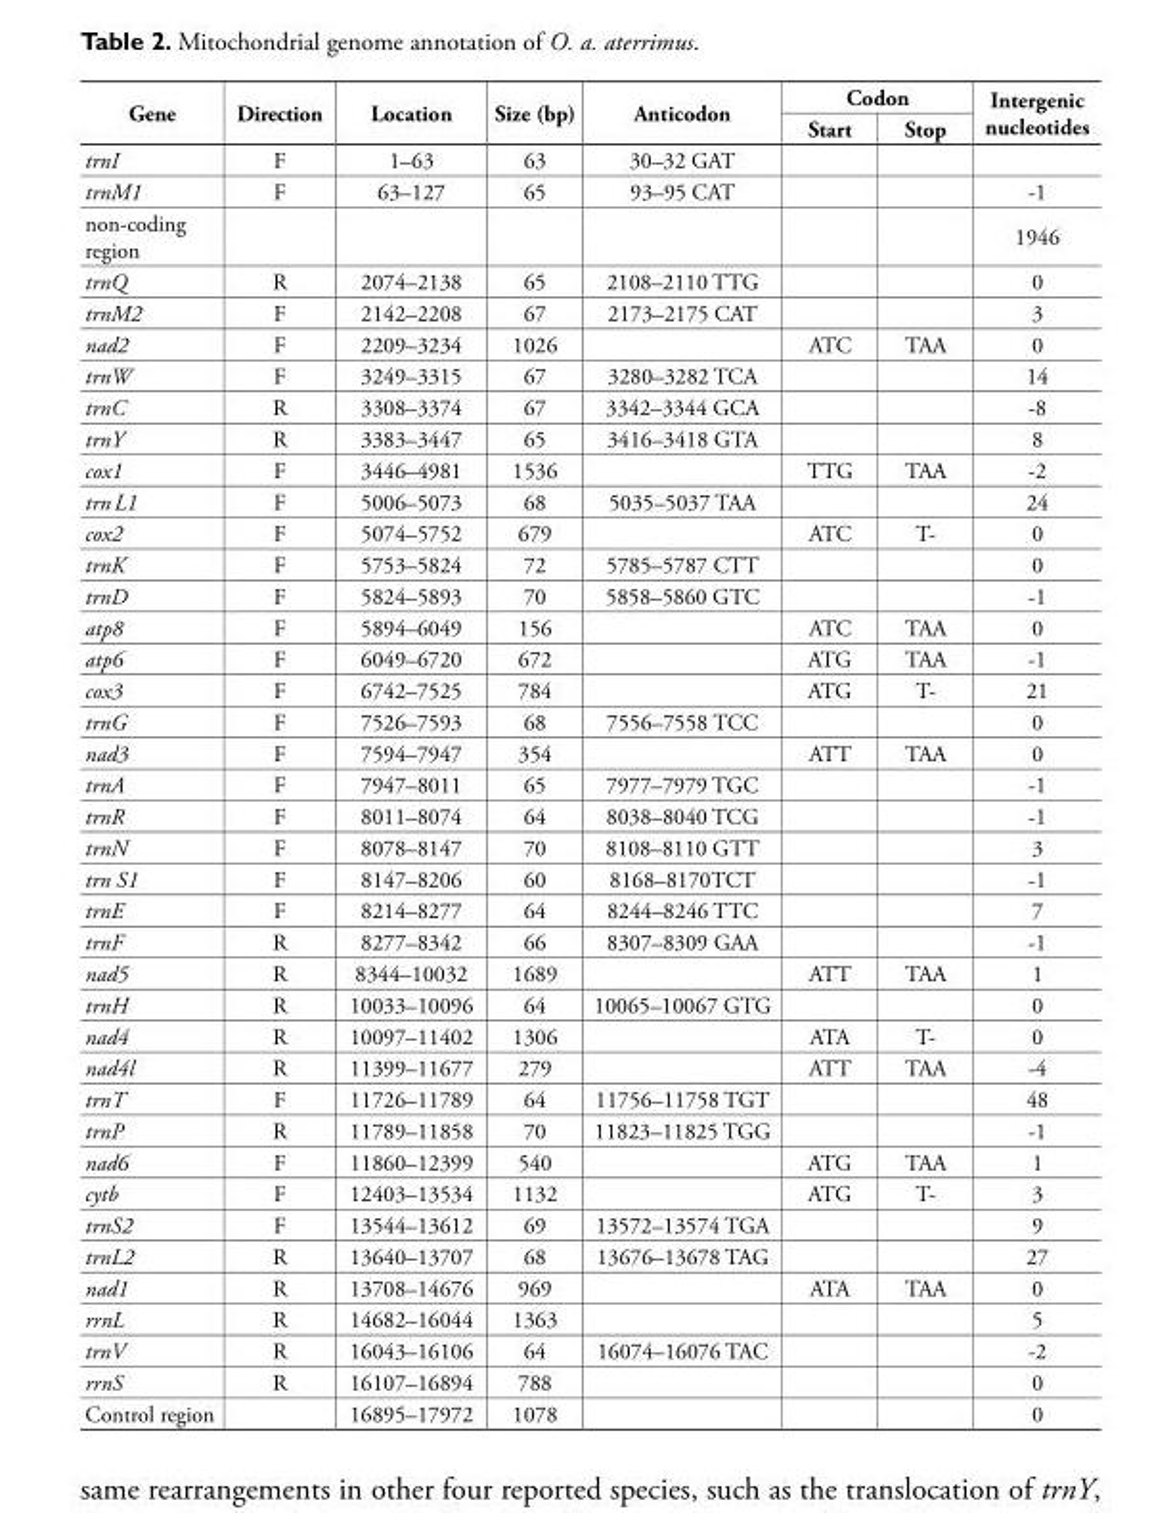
<table><tbody><tr><td rowspan="2">Gene</td><td rowspan="2">Direction</td><td rowspan="2">Location</td><td rowspan="2">Size (bp)</td><td rowspan="2">Anticodon</td><td colspan="2">Codon</td><td rowspan="2">Intergenic nucleotides</td></tr><tr><td>Start</td><td>Stop</td></tr><tr><td>trnI</td><td>F</td><td>1–63</td><td>63</td><td>30–32 GAT</td><td></td><td></td><td></td></tr><tr><td>trnM1</td><td>F</td><td>63–127</td><td>65</td><td>93–95 CAT</td><td></td><td></td><td>-1</td></tr><tr><td>non-coding region</td><td></td><td></td><td></td><td></td><td></td><td></td><td>1946</td></tr><tr><td>trnQ</td><td>R</td><td>2074–2138</td><td>65</td><td>2108–2110 TTG</td><td></td><td></td><td>0</td></tr><tr><td>trnM2</td><td>F</td><td>2142–2208</td><td>67</td><td>2173–2175 CAT</td><td></td><td></td><td>3</td></tr><tr><td>nad2</td><td>F</td><td>2209–3234</td><td>1026</td><td></td><td>ATC</td><td>TAA</td><td>0</td></tr><tr><td>trnW</td><td>F</td><td>3249–3315</td><td>67</td><td>3280–3282 TCA</td><td></td><td></td><td>14</td></tr><tr><td>trnC</td><td>R</td><td>3308–3374</td><td>67</td><td>3342–3344 GCA</td><td></td><td></td><td>-8</td></tr><tr><td>trnY</td><td>R</td><td>3383–3447</td><td>65</td><td>3416–3418 GTA</td><td></td><td></td><td>8</td></tr><tr><td>cox1</td><td>F</td><td>3446–4981</td><td>1536</td><td></td><td>TTG</td><td>TAA</td><td>-2</td></tr><tr><td>trn L1</td><td>F</td><td>5006–5073</td><td>68</td><td>5035–5037 TAA</td><td></td><td></td><td>24</td></tr><tr><td>cox2</td><td>F</td><td>5074–5752</td><td>679</td><td></td><td>ATC</td><td>T-</td><td>0</td></tr><tr><td>trnK</td><td>F</td><td>5753–5824</td><td>72</td><td>5785–5787 CTT</td><td></td><td></td><td>0</td></tr><tr><td>trnD</td><td>F</td><td>5824–5893</td><td>70</td><td>5858–5860 GTC</td><td></td><td></td><td>-1</td></tr><tr><td>atp8</td><td>F</td><td>5894–6049</td><td>156</td><td></td><td>ATC</td><td>TAA</td><td>0</td></tr><tr><td>atp6</td><td>F</td><td>6049–6720</td><td>672</td><td></td><td>ATG</td><td>TAA</td><td>-1</td></tr><tr><td>cox3</td><td>F</td><td>6742–7525</td><td>784</td><td></td><td>ATG</td><td>T-</td><td>21</td></tr><tr><td>trnG</td><td>F</td><td>7526–7593</td><td>68</td><td>7556–7558 TCC</td><td></td><td></td><td>0</td></tr><tr><td>nad3</td><td>F</td><td>7594–7947</td><td>354</td><td></td><td>ATT</td><td>TAA</td><td>0</td></tr><tr><td>trnA</td><td>F</td><td>7947–8011</td><td>65</td><td>7977–7979 TGC</td><td></td><td></td><td>-1</td></tr><tr><td>trnR</td><td>F</td><td>8011–8074</td><td>64</td><td>8038–8040 TCG</td><td></td><td></td><td>-1</td></tr><tr><td>trnN</td><td>F</td><td>8078–8147</td><td>70</td><td>8108–8110 GTT</td><td></td><td></td><td>3</td></tr><tr><td>trn S1</td><td>F</td><td>8147–8206</td><td>60</td><td>8168–8170TCT</td><td></td><td></td><td>-1</td></tr><tr><td>trnE</td><td>F</td><td>8214–8277</td><td>64</td><td>8244–8246 TTC</td><td></td><td></td><td>7</td></tr><tr><td>trnF</td><td>R</td><td>8277–8342</td><td>66</td><td>8307–8309 GAA</td><td></td><td></td><td>-1</td></tr><tr><td>nad5</td><td>R</td><td>8344–10032</td><td>1689</td><td></td><td>ATT</td><td>TAA</td><td>1</td></tr><tr><td>trnH</td><td>R</td><td>10033–10096</td><td>64</td><td>10065–10067 GTG</td><td></td><td></td><td>0</td></tr><tr><td>nad4</td><td>R</td><td>10097–11402</td><td>1306</td><td></td><td>ATA</td><td>T-</td><td>0</td></tr><tr><td>nad4l</td><td>R</td><td>11399–11677</td><td>279</td><td></td><td>ATT</td><td>TAA</td><td>-4</td></tr><tr><td>trnT</td><td>F</td><td>11726–11789</td><td>64</td><td>11756–11758 TGT</td><td></td><td></td><td>48</td></tr><tr><td>trnP</td><td>R</td><td>11789–11858</td><td>70</td><td>11823–11825 TGG</td><td></td><td></td><td>-1</td></tr><tr><td>nad6</td><td>F</td><td>11860–12399</td><td>540</td><td></td><td>ATG</td><td>TAA</td><td>1</td></tr><tr><td>cytb</td><td>F</td><td>12403–13534</td><td>1132</td><td></td><td>ATG</td><td>T-</td><td>3</td></tr><tr><td>trnS2</td><td>F</td><td>13544–13612</td><td>69</td><td>13572–13574 TGA</td><td></td><td></td><td>9</td></tr><tr><td>trnL2</td><td>R</td><td>13640–13707</td><td>68</td><td>13676–13678 TAG</td><td></td><td></td><td>27</td></tr><tr><td>nad1</td><td>R</td><td>13708–14676</td><td>969</td><td></td><td>ATA</td><td>TAA</td><td>0</td></tr><tr><td>rrnL</td><td>R</td><td>14682–16044</td><td>1363</td><td></td><td></td><td></td><td>5</td></tr><tr><td>trnV</td><td>R</td><td>16043–16106</td><td>64</td><td>16074–16076 TAC</td><td></td><td></td><td>-2</td></tr><tr><td>rrnS</td><td>R</td><td>16107–16894</td><td>788</td><td></td><td></td><td></td><td>0</td></tr><tr><td>Control region</td><td></td><td>16895–17972</td><td>1078</td><td></td><td></td><td></td><td>0</td></tr></tbody></table>